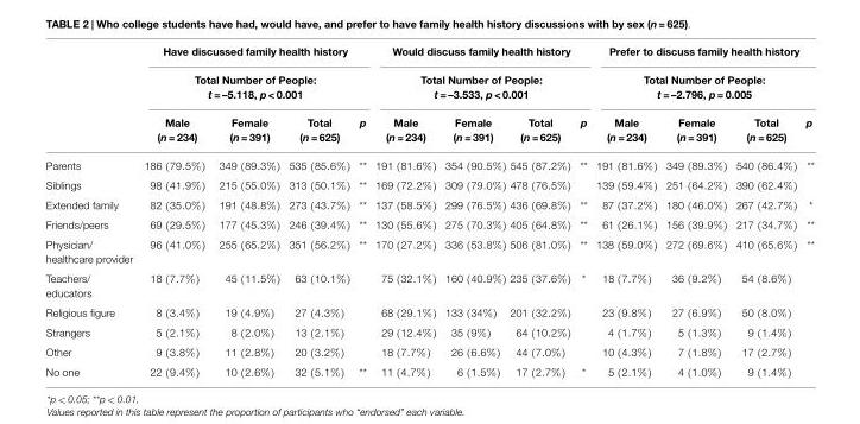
<table><thead><tr><td rowspan="3"></td><td rowspan="2" colspan="4">Have discussed family health history Total Number of People: t = –5.118, p &lt; 0.001</td><td rowspan="2" colspan="4">Would discuss family health history Total Number of People: t = –3.533, p &lt; 0.001</td><td rowspan="2" colspan="4">Prefer to discuss family health history Total Number of People: t = –2.796, p = 0.005</td></tr><tr></tr><tr><td>Male (n = 234)</td><td>Female (n = 391)</td><td>Total (n = 625)</td><td>p</td><td>Male (n = 234)</td><td>Female (n = 391)</td><td>Total (n = 625)</td><td>p</td><td>Male (n = 234)</td><td>Female (n = 391)</td><td>Total (n = 625)</td><td>p</td></tr></thead><tbody><tr><td>Parents</td><td>186 (79.5%)</td><td>349 (89.3%)</td><td>535 (85.6%)</td><td>**</td><td>191 (81.6%)</td><td>354 (90.5%)</td><td>545 (87.2%)</td><td>**</td><td>191 (81.6%)</td><td>349 (89.3%)</td><td>540 (86.4%)</td><td>**</td></tr><tr><td>Siblings</td><td>98 (41.9%)</td><td>215 (55.0%)</td><td>313 (50.1%)</td><td>**</td><td>169 (72.2%)</td><td>309 (79.0%)</td><td>478 (76.5%)</td><td></td><td>139 (59.4%)</td><td>251 (64.2%)</td><td>390 (62.4%)</td><td></td></tr><tr><td>Extended family</td><td>82 (35.0%)</td><td>191 (48.8%)</td><td>273 (43.7%)</td><td>**</td><td>137 (58.5%)</td><td>299 (76.5%)</td><td>436 (69.8%)</td><td>**</td><td>87 (37.2%)</td><td>180 (46.0%)</td><td>267 (42.7%)</td><td>*</td></tr><tr><td>Friends/peers</td><td>69 (29.5%)</td><td>177 (45.3%)</td><td>246 (39.4%)</td><td>**</td><td>130 (55.6%)</td><td>275 (70.3%)</td><td>405 (64.8%)</td><td>**</td><td>61 (26.1%)</td><td>156 (39.9%)</td><td>217 (34.7%)</td><td>**</td></tr><tr><td>Physician/ healthcare provider</td><td>96 (41.0%)</td><td>255 (65.2%)</td><td>351 (56.2%)</td><td>**</td><td>170 (27.2%)</td><td>336 (53.8%)</td><td>506 (81.0%)</td><td>**</td><td>138 (59.0%)</td><td>272 (69.6%)</td><td>410 (65.6%)</td><td>**</td></tr><tr><td>Teachers/ educators</td><td>18 (7.7%)</td><td>45 (11.5%)</td><td>63 (10.1%)</td><td></td><td>75 (32.1%)</td><td>160 (40.9%)</td><td>235 (37.6%)</td><td>*</td><td>18 (7.7%)</td><td>36 (9.2%)</td><td>54 (8.6%)</td><td></td></tr><tr><td>Religious figure</td><td>8 (3.4%)</td><td>19 (4.9%)</td><td>27 (4.3%)</td><td></td><td>68 (29.1%)</td><td>133 (34%)</td><td>201 (32.2%)</td><td></td><td>23 (9.8%)</td><td>27 (6.9%)</td><td>50 (8.0%)</td><td></td></tr><tr><td>Strangers</td><td>5 (2.1%)</td><td>8 (2.0%)</td><td>13 (2.1%)</td><td></td><td>29 (12.4%)</td><td>35 (9%)</td><td>64 (10.2%)</td><td></td><td>4 (1.7%)</td><td>5 (1.3%)</td><td>9 (1.4%)</td><td></td></tr><tr><td>Other</td><td>9 (3.8%)</td><td>11 (2.8%)</td><td>20 (3.2%)</td><td></td><td>18 (7.7%)</td><td>26 (6.6%)</td><td>44 (7.0%)</td><td></td><td>10 (4.3%)</td><td>7 (1.8%)</td><td>17 (2.7%)</td><td></td></tr><tr><td>No one</td><td>22 (9.4%)</td><td>10 (2.6%)</td><td>32 (5.1%)</td><td>**</td><td>11 (4.7%)</td><td>6 (1.5%)</td><td>17 (2.7%)</td><td>*</td><td>5 (2.1%)</td><td>4 (1.0%)</td><td>9 (1.4%)</td><td></td></tr></tbody></table>